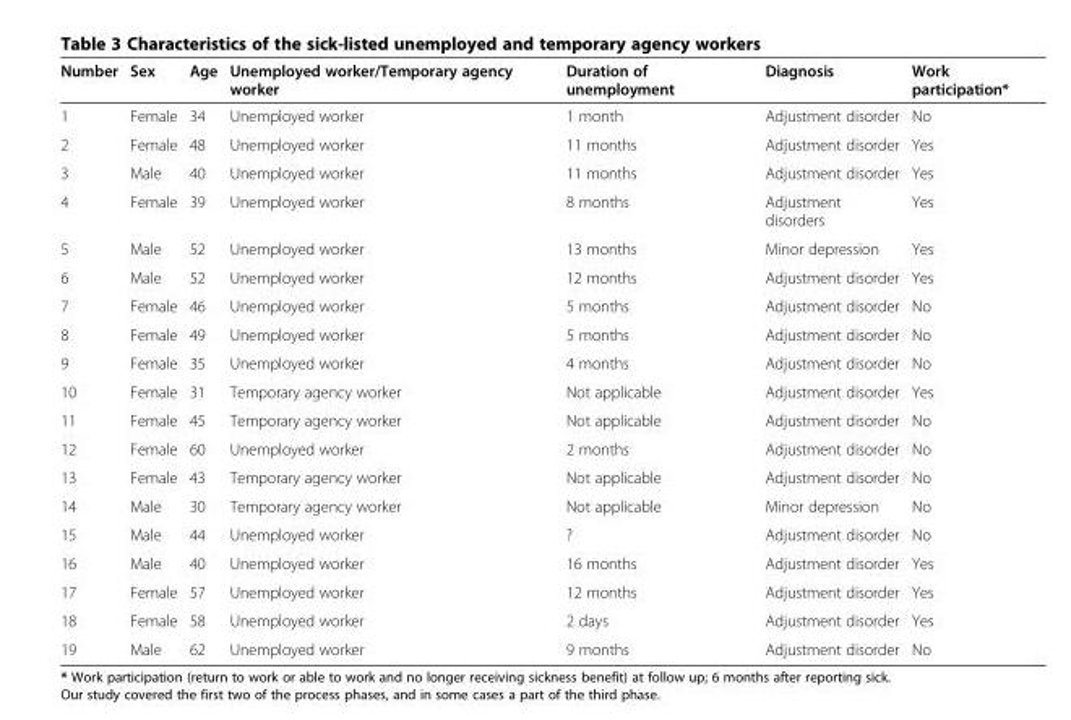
<table><thead><tr><td>Number</td><td>Sex</td><td>Age</td><td>Unemployed worker/Temporary agency worker</td><td>Duration of unemployment</td><td>Diagnosis</td><td>Work participation*</td></tr></thead><tbody><tr><td>1</td><td>Female</td><td>34</td><td>Unemployed worker</td><td>1 month</td><td>Adjustment disorder</td><td>No</td></tr><tr><td>2</td><td>Female</td><td>48</td><td>Unemployed worker</td><td>11 months</td><td>Adjustment disorder</td><td>Yes</td></tr><tr><td>3</td><td>Male</td><td>40</td><td>Unemployed worker</td><td>11 months</td><td>Adjustment disorder</td><td>Yes</td></tr><tr><td>4</td><td>Female</td><td>39</td><td>Unemployed worker</td><td>8 months</td><td>Adjustment disorders</td><td>Yes</td></tr><tr><td>5</td><td>Male</td><td>52</td><td>Unemployed worker</td><td>13 months</td><td>Minor depression</td><td>Yes</td></tr><tr><td>6</td><td>Male</td><td>52</td><td>Unemployed worker</td><td>12 months</td><td>Adjustment disorder</td><td>Yes</td></tr><tr><td>7</td><td>Female</td><td>46</td><td>Unemployed worker</td><td>5 months</td><td>Adjustment disorder</td><td>No</td></tr><tr><td>8</td><td>Female</td><td>49</td><td>Unemployed worker</td><td>5 months</td><td>Adjustment disorder</td><td>No</td></tr><tr><td>9</td><td>Female</td><td>35</td><td>Unemployed worker</td><td>4 months</td><td>Adjustment disorder</td><td>No</td></tr><tr><td>10</td><td>Female</td><td>31</td><td>Temporary agency worker</td><td>Not applicable</td><td>Adjustment disorder</td><td>Yes</td></tr><tr><td>11</td><td>Female</td><td>45</td><td>Temporary agency worker</td><td>Not applicable</td><td>Adjustment disorder</td><td>No</td></tr><tr><td>12</td><td>Female</td><td>60</td><td>Unemployed worker</td><td>2 months</td><td>Adjustment disorder</td><td>No</td></tr><tr><td>13</td><td>Female</td><td>43</td><td>Temporary agency worker</td><td>Not applicable</td><td>Adjustment disorder</td><td>No</td></tr><tr><td>14</td><td>Male</td><td>30</td><td>Temporary agency worker</td><td>Not applicable</td><td>Minor depression</td><td>No</td></tr><tr><td>15</td><td>Male</td><td>44</td><td>Unemployed worker</td><td>?</td><td>Adjustment disorder</td><td>No</td></tr><tr><td>16</td><td>Male</td><td>40</td><td>Unemployed worker</td><td>16 months</td><td>Adjustment disorder</td><td>Yes</td></tr><tr><td>17</td><td>Female</td><td>57</td><td>Unemployed worker</td><td>12 months</td><td>Adjustment disorder</td><td>Yes</td></tr><tr><td>18</td><td>Female</td><td>58</td><td>Unemployed worker</td><td>2 days</td><td>Adjustment disorder</td><td>Yes</td></tr><tr><td>19</td><td>Male</td><td>62</td><td>Unemployed worker</td><td>9 months</td><td>Adjustment disorder</td><td>No</td></tr></tbody></table>